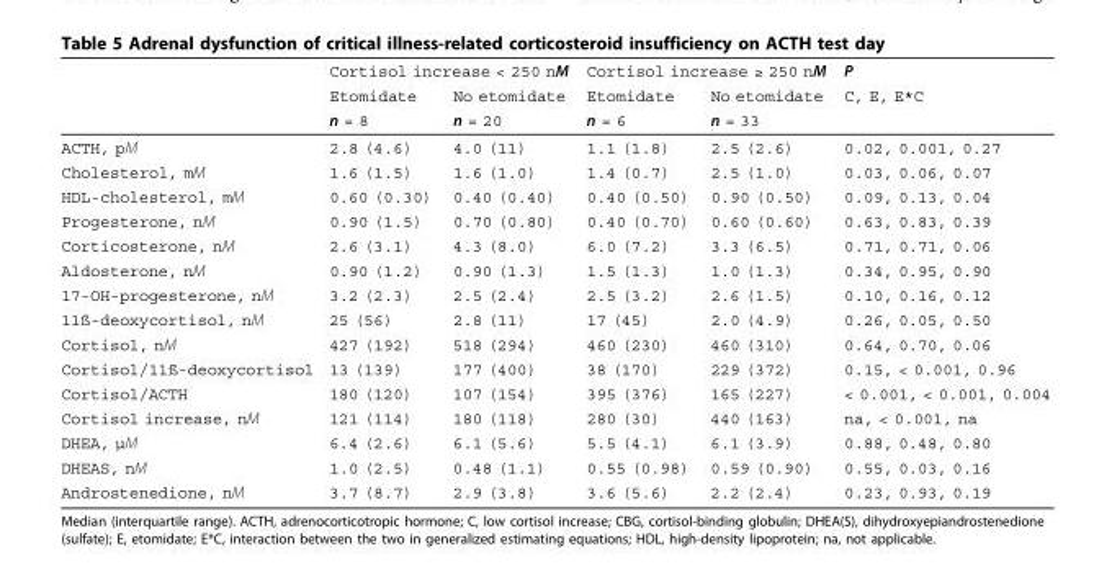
<table><thead><tr><td rowspan="3"></td><td colspan="2">Cortisol increase &lt; 250 nM</td><td colspan="2">Cortisol increase ≥ 250 nM</td><td rowspan="3">P C, E, E*C</td></tr><tr><td rowspan="2">Etomidate n = 8</td><td rowspan="2">No etomidate n = 20</td><td rowspan="2">Etomidate n = 6</td><td rowspan="2">No etomidate n = 33</td></tr><tr></tr></thead><tbody><tr><td>ACTH, pM</td><td>2.8 (4.6)</td><td>4.0 (11)</td><td>1.1 (1.8)</td><td>2.5 (2.6)</td><td>0.02, 0.001, 0.27</td></tr><tr><td>Cholesterol, mM</td><td>1.6 (1.5)</td><td>1.6 (1.0)</td><td>1.4 (0.7)</td><td>2.5 (1.0)</td><td>0.03, 0.06, 0.07</td></tr><tr><td>HDL-cholesterol, mM</td><td>0.60 (0.30)</td><td>0.40 (0.40)</td><td>0.40 (0.50)</td><td>0.90 (0.50)</td><td>0.09, 0.13, 0.04</td></tr><tr><td>Progesterone, nM</td><td>0.90 (1.5)</td><td>0.70 (0.80)</td><td>0.40 (0.70)</td><td>0.60 (0.60)</td><td>0.63, 0.83, 0.39</td></tr><tr><td>Corticosterone, nM</td><td>2.6 (3.1)</td><td>4.3 (8.0)</td><td>6.0 (7.2)</td><td>3.3 (6.5)</td><td>0.71, 0.71, 0.06</td></tr><tr><td>Aldosterone, nM</td><td>0.90 (1.2)</td><td>0.90 (1.3)</td><td>1.5 (1.3)</td><td>1.0 (1.3)</td><td>0.34, 0.95, 0.90</td></tr><tr><td>17-OH-progesterone, nM</td><td>3.2 (2.3)</td><td>2.5 (2.4)</td><td>2.5 (3.2)</td><td>2.6 (1.5)</td><td>0.10, 0.16, 0.12</td></tr><tr><td>11ß-deoxycortisol, nM</td><td>25 (56)</td><td>2.8 (11)</td><td>17 (45)</td><td>2.0 (4.9)</td><td>0.26, 0.05, 0.50</td></tr><tr><td>Cortisol, nM</td><td>427 (192)</td><td>518 (294)</td><td>460 (230)</td><td>460 (310)</td><td>0.64, 0.70, 0.06</td></tr><tr><td>Cortisol/11ß-deoxycortisol</td><td>13 (139)</td><td>177 (400)</td><td>38 (170)</td><td>229 (372)</td><td>0.15, &lt; 0.001, 0.96</td></tr><tr><td>Cortisol/ACTH</td><td>180 (120)</td><td>107 (154)</td><td>395 (376)</td><td>165 (227)</td><td>&lt; 0.001, &lt; 0.001, 0.004</td></tr><tr><td>Cortisol increase, nM</td><td>121 (114)</td><td>180 (118)</td><td>280 (30)</td><td>440 (163)</td><td>na, &lt; 0.001, na</td></tr><tr><td>DHEA, μM</td><td>6.4 (2.6)</td><td>6.1 (5.6)</td><td>5.5 (4.1)</td><td>6.1 (3.9)</td><td>0.88, 0.48, 0.80</td></tr><tr><td>DHEAS, nM</td><td>1.0 (2.5)</td><td>0.48 (1.1)</td><td>0.55 (0.98)</td><td>0.59 (0.90)</td><td>0.55, 0.03, 0.16</td></tr><tr><td>Androstenedione, nM</td><td>3.7 (8.7)</td><td>2.9 (3.8)</td><td>3.6 (5.6)</td><td>2.2 (2.4)</td><td>0.23, 0.93, 0.19</td></tr></tbody></table>